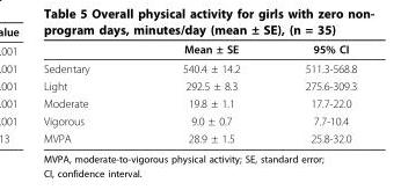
<table><thead><tr><td></td><td>Mean ± SE</td><td>95% CI</td></tr></thead><tbody><tr><td>Sedentary</td><td>540.4 ± 14.2</td><td>511.3-568.8</td></tr><tr><td>Light</td><td>292.5 ± 8.3</td><td>275.6-309.3</td></tr><tr><td>Moderate</td><td>19.8 ± 1.1</td><td>17.7-22.0</td></tr><tr><td>Vigorous</td><td>9.0 ± 0.7</td><td>7.7-10.4</td></tr><tr><td>MVPA</td><td>28.9 ± 1.5</td><td>25.8-32.0</td></tr></tbody></table>